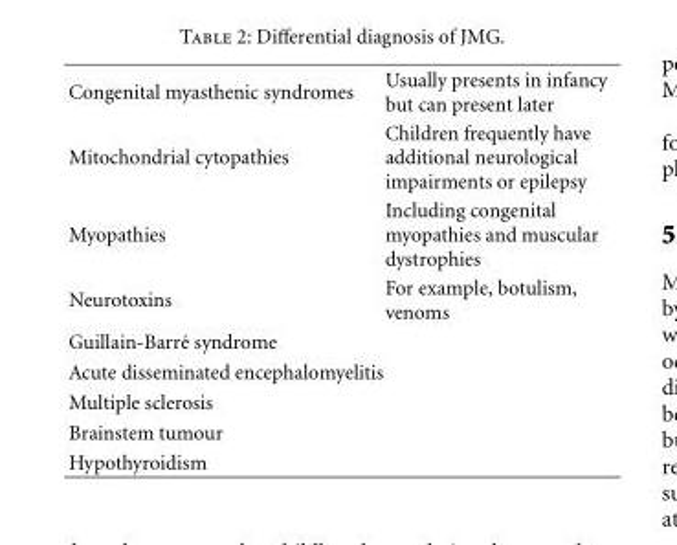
<table><tbody><tr><td>Congenital myasthenic syndromes</td><td>Usually presents in infancy but can present later</td></tr><tr><td>Mitochondrial cytopathies</td><td>Children frequently have additional neurological impairments or epilepsy</td></tr><tr><td>Myopathies</td><td>Including congenital myopathies and muscular dystrophies</td></tr><tr><td>Neurotoxins</td><td>For example, botulism, venoms</td></tr><tr><td colspan="2">Guillain-Barr´e syndrome</td></tr><tr><td colspan="2">Acute disseminated encephalomyelitis</td></tr><tr><td colspan="2">Multiple sclerosis</td></tr><tr><td colspan="2">Brainstem tumour</td></tr><tr><td>Hypothyroidism</td><td></td></tr></tbody></table>